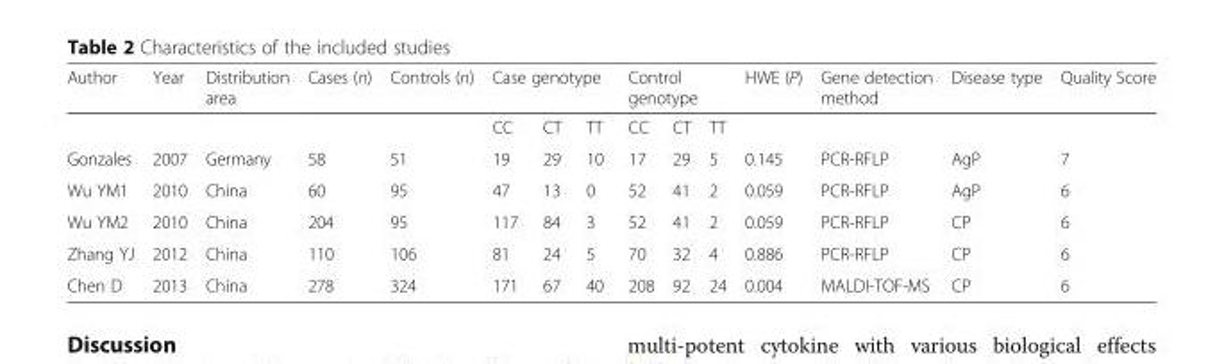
<table><thead><tr><td rowspan="2">Author</td><td rowspan="2">Year</td><td rowspan="2">Distribution area</td><td rowspan="2">Cases (n)</td><td rowspan="2">Controls (n)</td><td colspan="3">Case genotype</td><td colspan="3">Control genotype</td><td rowspan="2">HWE (P)</td><td rowspan="2">Gene detection method</td><td rowspan="2">Disease type</td><td rowspan="2">Quality Score</td></tr><tr><td>CC</td><td>CT</td><td>TT</td><td>CC</td><td>CT</td><td>TT</td></tr></thead><tbody><tr><td>Gonzales</td><td>2007</td><td>Germany</td><td>58</td><td>51</td><td>19</td><td>29</td><td>10</td><td>17</td><td>29</td><td>5</td><td>0.145</td><td>PCR-RFLP</td><td>AgP</td><td>7</td></tr><tr><td>Wu YM1</td><td>2010</td><td>China</td><td>60</td><td>95</td><td>47</td><td>13</td><td>0</td><td>52</td><td>41</td><td>2</td><td>0.059</td><td>PCR-RFLP</td><td>AgP</td><td>6</td></tr><tr><td>Wu YM2</td><td>2010</td><td>China</td><td>204</td><td>95</td><td>117</td><td>84</td><td>3</td><td>52</td><td>41</td><td>2</td><td>0.059</td><td>PCR-RFLP</td><td>CP</td><td>6</td></tr><tr><td>Zhang YJ</td><td>2012</td><td>China</td><td>110</td><td>106</td><td>81</td><td>24</td><td>5</td><td>70</td><td>32</td><td>4</td><td>0.886</td><td>PCR-RFLP</td><td>CP</td><td>6</td></tr><tr><td>Chen D</td><td>2013</td><td>China</td><td>278</td><td>324</td><td>171</td><td>67</td><td>40</td><td>208</td><td>92</td><td>24</td><td>0.004</td><td>MALDI-TOF-MS</td><td>CP</td><td>6</td></tr></tbody></table>